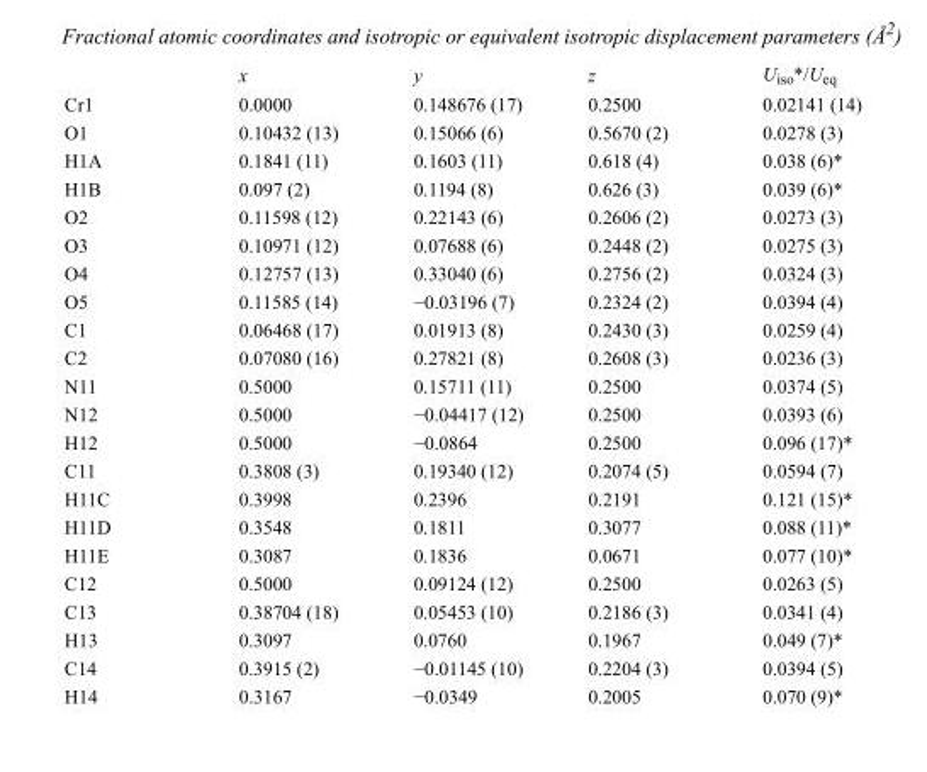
<table><thead><tr><td></td><td>x</td><td>y</td><td>z</td><td>U<sub>iso</sub>*/U<sub>eq</sub></td></tr></thead><tbody><tr><td>Cr1</td><td>0.0000</td><td>0.148676 (17)</td><td>0.2500</td><td>0.02141 (14)</td></tr><tr><td>O1</td><td>0.10432 (13)</td><td>0.15066 (6)</td><td>0.5670 (2)</td><td>0.0278 (3)</td></tr><tr><td>H1A</td><td>0.1841 (11)</td><td>0.1603 (11)</td><td>0.618 (4)</td><td>0.038 (6)*</td></tr><tr><td>H1B</td><td>0.097 (2)</td><td>0.1194 (8)</td><td>0.626 (3)</td><td>0.039 (6)*</td></tr><tr><td>O2</td><td>0.11598 (12)</td><td>0.22143 (6)</td><td>0.2606 (2)</td><td>0.0273 (3)</td></tr><tr><td>O3</td><td>0.10971 (12)</td><td>0.07688 (6)</td><td>0.2448 (2)</td><td>0.0275 (3)</td></tr><tr><td>O4</td><td>0.12757 (13)</td><td>0.33040 (6)</td><td>0.2756 (2)</td><td>0.0324 (3)</td></tr><tr><td>O5</td><td>0.11585 (14)</td><td>−0.03196 (7)</td><td>0.2324 (2)</td><td>0.0394 (4)</td></tr><tr><td>C1</td><td>0.06468 (17)</td><td>0.01913 (8)</td><td>0.2430 (3)</td><td>0.0259 (4)</td></tr><tr><td>C2</td><td>0.07080 (16)</td><td>0.27821 (8)</td><td>0.2608 (3)</td><td>0.0236 (3)</td></tr><tr><td>N11</td><td>0.5000</td><td>0.15711 (11)</td><td>0.2500</td><td>0.0374 (5)</td></tr><tr><td>N12</td><td>0.5000</td><td>−0.04417 (12)</td><td>0.2500</td><td>0.0393 (6)</td></tr><tr><td>H12</td><td>0.5000</td><td>−0.0864</td><td>0.2500</td><td>0.096 (17)*</td></tr><tr><td>C11</td><td>0.3808 (3)</td><td>0.19340 (12)</td><td>0.2074 (5)</td><td>0.0594 (7)</td></tr><tr><td>H11C</td><td>0.3998</td><td>0.2396</td><td>0.2191</td><td>0.121 (15)*</td></tr><tr><td>H11D</td><td>0.3548</td><td>0.1811</td><td>0.3077</td><td>0.088 (11)*</td></tr><tr><td>H11E</td><td>0.3087</td><td>0.1836</td><td>0.0671</td><td>0.077 (10)*</td></tr><tr><td>C12</td><td>0.5000</td><td>0.09124 (12)</td><td>0.2500</td><td>0.0263 (5)</td></tr><tr><td>C13</td><td>0.38704 (18)</td><td>0.05453 (10)</td><td>0.2186 (3)</td><td>0.0341 (4)</td></tr><tr><td>H13</td><td>0.3097</td><td>0.0760</td><td>0.1967</td><td>0.049 (7)*</td></tr><tr><td>C14</td><td>0.3915 (2)</td><td>−0.01145 (10)</td><td>0.2204 (3)</td><td>0.0394 (5)</td></tr><tr><td>H14</td><td>0.3167</td><td>−0.0349</td><td>0.2005</td><td>0.070 (9)*</td></tr></tbody></table>